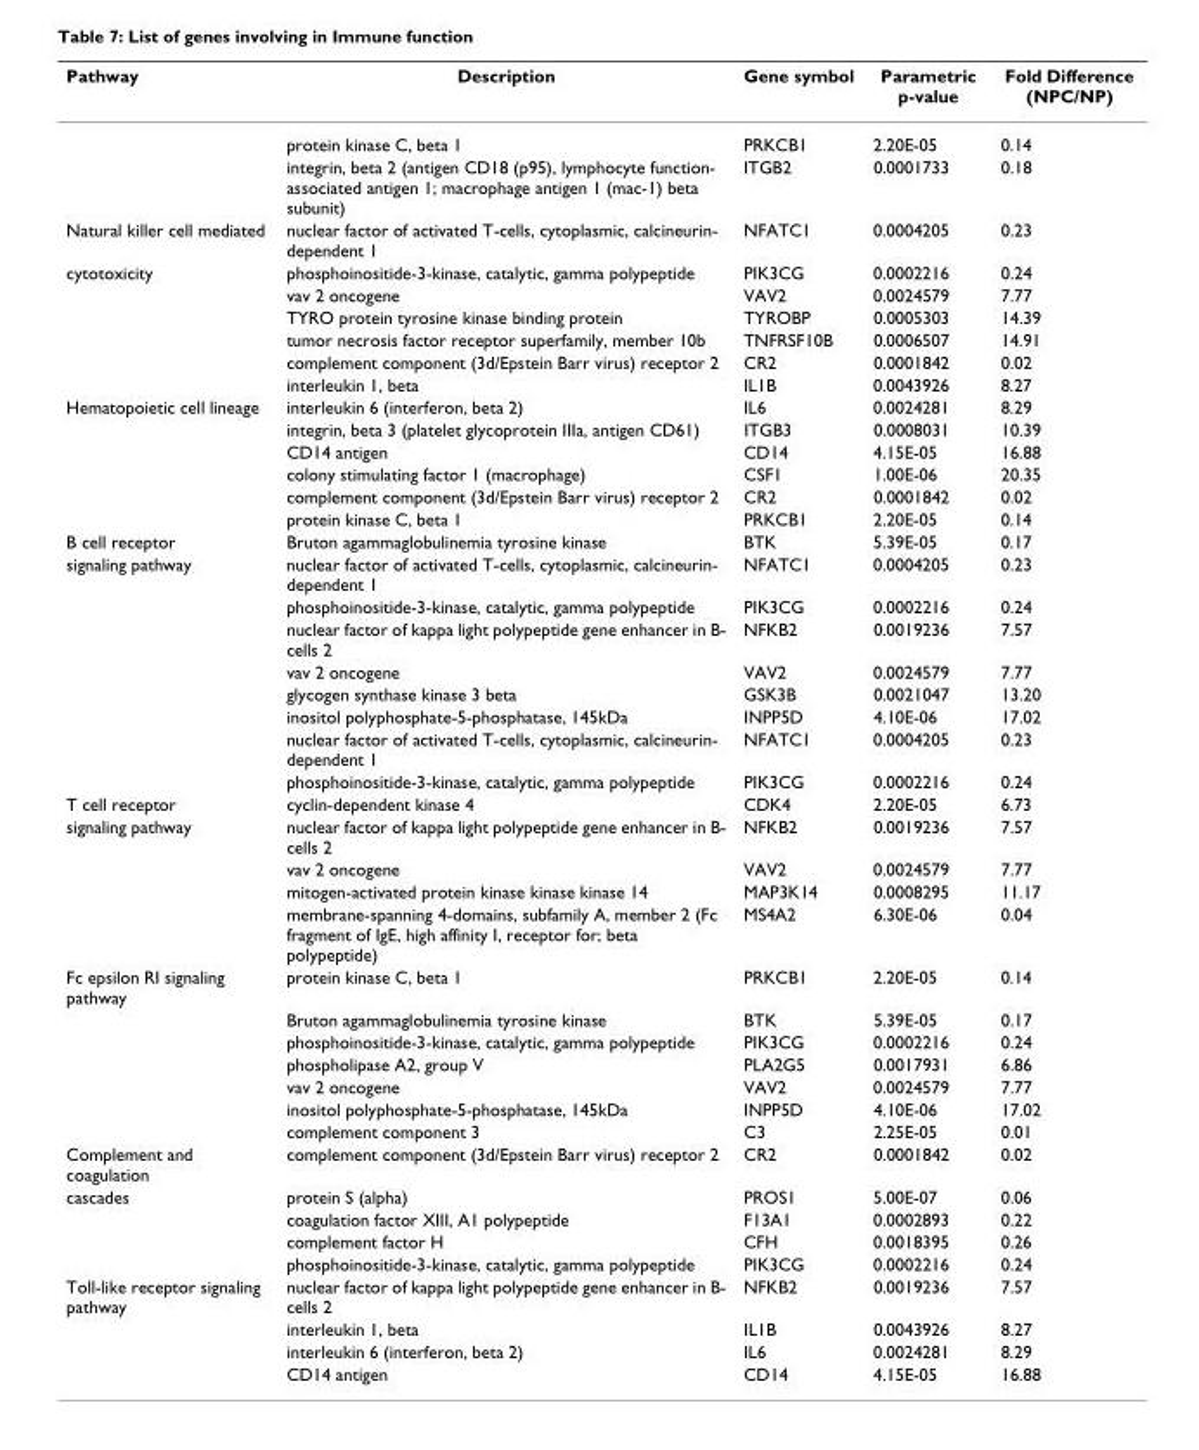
<table><thead><tr><td>Pathway</td><td>Description</td><td>Gene symbol</td><td>Parametric p-value</td><td>Fold Difference (NPC/NP)</td></tr></thead><tbody><tr><td></td><td>protein kinase C, beta 1</td><td>PRKCB1</td><td>2.20E-05</td><td>0.14</td></tr><tr><td></td><td>integrin, beta 2 (antigen CD18 (p95), lymphocyte function- associated antigen 1; macrophage antigen 1 (mac-1) beta subunit)</td><td>ITGB2</td><td>0.0001733</td><td>0.18</td></tr><tr><td>Natural killer cell mediated</td><td>nuclear factor of activated T-cells, cytoplasmic, calcineurin- dependent 1</td><td>NFATC1</td><td>0.0004205</td><td>0.23</td></tr><tr><td rowspan="6">cytotoxicity</td><td>phosphoinositide-3-kinase, catalytic, gamma polypeptide</td><td>PIK3CG</td><td>0.0002216</td><td>0.24</td></tr><tr><td>vav 2 oncogene</td><td>VAV2</td><td>0.0024579</td><td>7.77</td></tr><tr><td>TYRO protein tyrosine kinase binding protein</td><td>TYROBP</td><td>0.0005303</td><td>14.39</td></tr><tr><td>tumor necrosis factor receptor superfamily, member 10b</td><td>TNFRSF10B</td><td>0.0006507</td><td>14.91</td></tr><tr><td>complement component (3d/Epstein Barr virus) receptor 2</td><td>CR2</td><td>0.0001842</td><td>0.02</td></tr><tr><td>interleukin 1, beta</td><td>IL1B</td><td>0.0043926</td><td>8.27</td></tr><tr><td rowspan="6">Hematopoietic cell lineage</td><td>interleukin 6 (interferon, beta 2)</td><td>IL6</td><td>0.0024281</td><td>8.29</td></tr><tr><td>integrin, beta 3 (platelet glycoprotein IIIa, antigen CD61)</td><td>ITGB3</td><td>0.0008031</td><td>10.39</td></tr><tr><td>CD14 antigen</td><td>CD14</td><td>4.15E-05</td><td>16.88</td></tr><tr><td>colony stimulating factor 1 (macrophage)</td><td>CSF1</td><td>1.00E-06</td><td>20.35</td></tr><tr><td>complement component (3d/Epstein Barr virus) receptor 2</td><td>CR2</td><td>0.0001842</td><td>0.02</td></tr><tr><td>protein kinase C, beta 1</td><td>PRKCB1</td><td>2.20E-05</td><td>0.14</td></tr><tr><td>B cell receptor</td><td>Bruton agammaglobulinemia tyrosine kinase</td><td>BTK</td><td>5.39E-05</td><td>0.17</td></tr><tr><td rowspan="8">signaling pathway</td><td>nuclear factor of activated T-cells, cytoplasmic, calcineurin- dependent 1</td><td>NFATC1</td><td>0.0004205</td><td>0.23</td></tr><tr><td>phosphoinositide-3-kinase, catalytic, gamma polypeptide</td><td>PIK3CG</td><td>0.0002216</td><td>0.24</td></tr><tr><td>nuclear factor of kappa light polypeptide gene enhancer in B- cells 2</td><td>NFKB2</td><td>0.0019236</td><td>7.57</td></tr><tr><td>vav 2 oncogene</td><td>VAV2</td><td>0.0024579</td><td>7.77</td></tr><tr><td>glycogen synthase kinase 3 beta</td><td>GSK3B</td><td>0.0021047</td><td>13.20</td></tr><tr><td>inositol polyphosphate-5-phosphatase, 145kDa</td><td>INPP5D</td><td>4.10E-06</td><td>17.02</td></tr><tr><td>nuclear factor of activated T-cells, cytoplasmic, calcineurin- dependent 1</td><td>NFATC1</td><td>0.0004205</td><td>0.23</td></tr><tr><td>phosphoinositide-3-kinase, catalytic, gamma polypeptide</td><td>PIK3CG</td><td>0.0002216</td><td>0.24</td></tr><tr><td>T cell receptor</td><td>cyclin-dependent kinase 4</td><td>CDK4</td><td>2.20E-05</td><td>6.73</td></tr><tr><td rowspan="4">signaling pathway</td><td>nuclear factor of kappa light polypeptide gene enhancer in B- cells 2</td><td>NFKB2</td><td>0.0019236</td><td>7.57</td></tr><tr><td>vav 2 oncogene</td><td>VAV2</td><td>0.0024579</td><td>7.77</td></tr><tr><td>mitogen-activated protein kinase kinase kinase 14</td><td>MAP3K14</td><td>0.0008295</td><td>11.17</td></tr><tr><td>membrane-spanning 4-domains, subfamily A, member 2 (Fc fragment of IgE, high affinity I, receptor for; beta polypeptide)</td><td>MS4A2</td><td>6.30E-06</td><td>0.04</td></tr><tr><td rowspan="7">Fc epsilon RI signaling pathway</td><td>protein kinase C, beta 1</td><td>PRKCB1</td><td>2.20E-05</td><td>0.14</td></tr><tr><td>Bruton agammaglobulinemia tyrosine kinase</td><td>BTK</td><td>5.39E-05</td><td>0.17</td></tr><tr><td>phosphoinositide-3-kinase, catalytic, gamma polypeptide</td><td>PIK3CG</td><td>0.0002216</td><td>0.24</td></tr><tr><td>phospholipase A2, group V</td><td>PLA2G5</td><td>0.0017931</td><td>6.86</td></tr><tr><td>vav 2 oncogene</td><td>VAV2</td><td>0.0024579</td><td>7.77</td></tr><tr><td>inositol polyphosphate-5-phosphatase, 145kDa</td><td>INPP5D</td><td>4.10E-06</td><td>17.02</td></tr><tr><td>complement component 3</td><td>C3</td><td>2.25E-05</td><td>0.01</td></tr><tr><td>Complement and coagulation</td><td>complement component (3d/Epstein Barr virus) receptor 2</td><td>CR2</td><td>0.0001842</td><td>0.02</td></tr><tr><td rowspan="4">cascades</td><td>protein S (alpha)</td><td>PROS1</td><td>5.00E-07</td><td>0.06</td></tr><tr><td>coagulation factor XIII, A1 polypeptide</td><td>F13A1</td><td>0.0002893</td><td>0.22</td></tr><tr><td>complement factor H</td><td>CFH</td><td>0.0018395</td><td>0.26</td></tr><tr><td>phosphoinositide-3-kinase, catalytic, gamma polypeptide</td><td>PIK3CG</td><td>0.0002216</td><td>0.24</td></tr><tr><td rowspan="4">Toll-like receptor signaling pathway</td><td>nuclear factor of kappa light polypeptide gene enhancer in B- cells 2</td><td>NFKB2</td><td>0.0019236</td><td>7.57</td></tr><tr><td>interleukin 1, beta</td><td>IL1B</td><td>0.0043926</td><td>8.27</td></tr><tr><td>interleukin 6 (interferon, beta 2)</td><td>IL6</td><td>0.0024281</td><td>8.29</td></tr><tr><td>CD14 antigen</td><td>CD14</td><td>4.15E-05</td><td>16.88</td></tr></tbody></table>